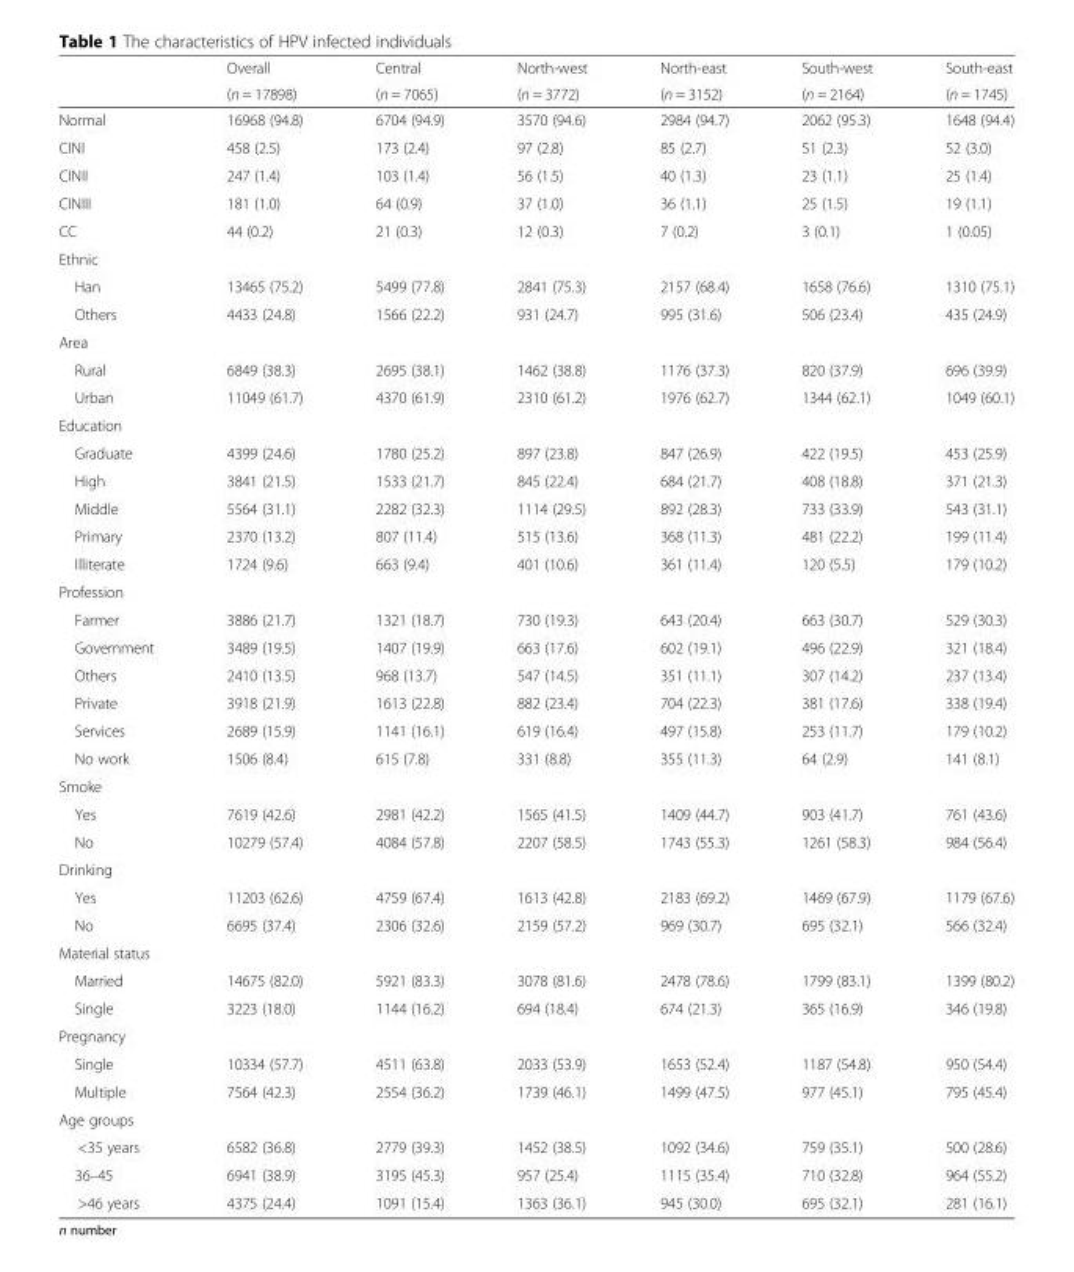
<table><thead><tr><td rowspan="2"></td><td rowspan="2">Overall (n = 17898)</td><td rowspan="2">Central (n = 7065)</td><td rowspan="2">North-west (n = 3772)</td><td rowspan="2">North-east (n = 3152)</td><td rowspan="2">South-west (n = 2164)</td><td rowspan="2">South-east (n = 1745)</td></tr><tr></tr></thead><tbody><tr><td>Normal</td><td>16968 (94.8)</td><td>6704 (94.9)</td><td>3570 (94.6)</td><td>2984 (94.7)</td><td>2062 (95.3)</td><td>1648 (94.4)</td></tr><tr><td>CINI</td><td>458 (2.5)</td><td>173 (2.4)</td><td>97 (2.8)</td><td>85 (2.7)</td><td>51 (2.3)</td><td>52 (3.0)</td></tr><tr><td>CINII</td><td>247 (1.4)</td><td>103 (1.4)</td><td>56 (1.5)</td><td>40 (1.3)</td><td>23 (1.1)</td><td>25 (1.4)</td></tr><tr><td>CINIII</td><td>181 (1.0)</td><td>64 (0.9)</td><td>37 (1.0)</td><td>36 (1.1)</td><td>25 (1.5)</td><td>19 (1.1)</td></tr><tr><td>CC</td><td>44 (0.2)</td><td>21 (0.3)</td><td>12 (0.3)</td><td>7 (0.2)</td><td>3 (0.1)</td><td>1 (0.05)</td></tr><tr><td colspan="7">Ethnic</td></tr><tr><td>Han</td><td>13465 (75.2)</td><td>5499 (77.8)</td><td>2841 (75.3)</td><td>2157 (68.4)</td><td>1658 (76.6)</td><td>1310 (75.1)</td></tr><tr><td>Others</td><td>4433 (24.8)</td><td>1566 (22.2)</td><td>931 (24.7)</td><td>995 (31.6)</td><td>506 (23.4)</td><td>435 (24.9)</td></tr><tr><td colspan="7">Area</td></tr><tr><td>Rural</td><td>6849 (38.3)</td><td>2695 (38.1)</td><td>1462 (38.8)</td><td>1176 (37.3)</td><td>820 (37.9)</td><td>696 (39.9)</td></tr><tr><td>Urban</td><td>11049 (61.7)</td><td>4370 (61.9)</td><td>2310 (61.2)</td><td>1976 (62.7)</td><td>1344 (62.1)</td><td>1049 (60.1)</td></tr><tr><td colspan="7">Education</td></tr><tr><td>Graduate</td><td>4399 (24.6)</td><td>1780 (25.2)</td><td>897 (23.8)</td><td>847 (26.9)</td><td>422 (19.5)</td><td>453 (25.9)</td></tr><tr><td>High</td><td>3841 (21.5)</td><td>1533 (21.7)</td><td>845 (22.4)</td><td>684 (21.7)</td><td>408 (18.8)</td><td>371 (21.3)</td></tr><tr><td>Middle</td><td>5564 (31.1)</td><td>2282 (32.3)</td><td>1114 (29.5)</td><td>892 (28.3)</td><td>733 (33.9)</td><td>543 (31.1)</td></tr><tr><td>Primary</td><td>2370 (13.2)</td><td>807 (11.4)</td><td>515 (13.6)</td><td>368 (11.3)</td><td>481 (22.2)</td><td>199 (11.4)</td></tr><tr><td>Illiterate</td><td>1724 (9.6)</td><td>663 (9.4)</td><td>401 (10.6)</td><td>361 (11.4)</td><td>120 (5.5)</td><td>179 (10.2)</td></tr><tr><td colspan="7">Profession</td></tr><tr><td>Farmer</td><td>3886 (21.7)</td><td>1321 (18.7)</td><td>730 (19.3)</td><td>643 (20.4)</td><td>663 (30.7)</td><td>529 (30.3)</td></tr><tr><td>Government</td><td>3489 (19.5)</td><td>1407 (19.9)</td><td>663 (17.6)</td><td>602 (19.1)</td><td>496 (22.9)</td><td>321 (18.4)</td></tr><tr><td>Others</td><td>2410 (13.5)</td><td>968 (13.7)</td><td>547 (14.5)</td><td>351 (11.1)</td><td>307 (14.2)</td><td>237 (13.4)</td></tr><tr><td>Private</td><td>3918 (21.9)</td><td>1613 (22.8)</td><td>882 (23.4)</td><td>704 (22.3)</td><td>381 (17.6)</td><td>338 (19.4)</td></tr><tr><td>Services</td><td>2689 (15.9)</td><td>1141 (16.1)</td><td>619 (16.4)</td><td>497 (15.8)</td><td>253 (11.7)</td><td>179 (10.2)</td></tr><tr><td>No work</td><td>1506 (8.4)</td><td>615 (7.8)</td><td>331 (8.8)</td><td>355 (11.3)</td><td>64 (2.9)</td><td>141 (8.1)</td></tr><tr><td colspan="7">Smoke</td></tr><tr><td>Yes</td><td>7619 (42.6)</td><td>2981 (42.2)</td><td>1565 (41.5)</td><td>1409 (44.7)</td><td>903 (41.7)</td><td>761 (43.6)</td></tr><tr><td>No</td><td>10279 (57.4)</td><td>4084 (57.8)</td><td>2207 (58.5)</td><td>1743 (55.3)</td><td>1261 (58.3)</td><td>984 (56.4)</td></tr><tr><td colspan="7">Drinking</td></tr><tr><td>Yes</td><td>11203 (62.6)</td><td>4759 (67.4)</td><td>1613 (42.8)</td><td>2183 (69.2)</td><td>1469 (67.9)</td><td>1179 (67.6)</td></tr><tr><td>No</td><td>6695 (37.4)</td><td>2306 (32.6)</td><td>2159 (57.2)</td><td>969 (30.7)</td><td>695 (32.1)</td><td>566 (32.4)</td></tr><tr><td colspan="7">Material status</td></tr><tr><td>Married</td><td>14675 (82.0)</td><td>5921 (83.3)</td><td>3078 (81.6)</td><td>2478 (78.6)</td><td>1799 (83.1)</td><td>1399 (80.2)</td></tr><tr><td>Single</td><td>3223 (18.0)</td><td>1144 (16.2)</td><td>694 (18.4)</td><td>674 (21.3)</td><td>365 (16.9)</td><td>346 (19.8)</td></tr><tr><td colspan="7">Pregnancy</td></tr><tr><td>Single</td><td>10334 (57.7)</td><td>4511 (63.8)</td><td>2033 (53.9)</td><td>1653 (52.4)</td><td>1187 (54.8)</td><td>950 (54.4)</td></tr><tr><td>Multiple</td><td>7564 (42.3)</td><td>2554 (36.2)</td><td>1739 (46.1)</td><td>1499 (47.5)</td><td>977 (45.1)</td><td>795 (45.4)</td></tr><tr><td colspan="7">Age groups</td></tr><tr><td>&lt;35 years</td><td>6582 (36.8)</td><td>2779 (39.3)</td><td>1452 (38.5)</td><td>1092 (34.6)</td><td>759 (35.1)</td><td>500 (28.6)</td></tr><tr><td>36–45</td><td>6941 (38.9)</td><td>3195 (45.3)</td><td>957 (25.4)</td><td>1115 (35.4)</td><td>710 (32.8)</td><td>964 (55.2)</td></tr><tr><td>&gt;46 years</td><td>4375 (24.4)</td><td>1091 (15.4)</td><td>1363 (36.1)</td><td>945 (30.0)</td><td>695 (32.1)</td><td>281 (16.1)</td></tr></tbody></table>